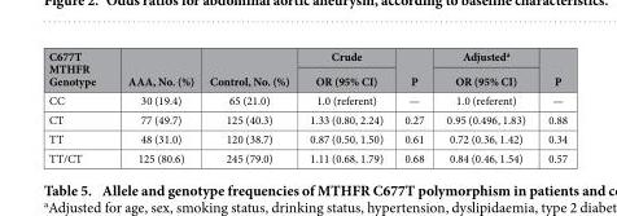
<table><thead><tr><td rowspan="2">C677T MTHFR Genotype</td><td rowspan="2">AAA, No. (%)</td><td rowspan="2">Control, No. (%)</td><td rowspan="2">Crude OR (95% CI)</td><td rowspan="2">P</td><td rowspan="2">Adjusted<sup>a</sup> OR (95% CI)</td><td rowspan="2">P</td></tr><tr></tr></thead><tbody><tr><td>CC</td><td>30 (19.4)</td><td>65 (21.0)</td><td>1.0 (referent)</td><td>—</td><td>1.0 (referent)</td><td>—</td></tr><tr><td>CT</td><td>77 (49.7)</td><td>125 (40.3)</td><td>1.33 (0.80, 2.24)</td><td>0.27</td><td>0.95 (0.496, 1.83)</td><td>0.88</td></tr><tr><td>TT</td><td>48 (31.0)</td><td>120 (38.7)</td><td>0.87 (0.50, 1.50)</td><td>0.61</td><td>0.72 (0.36, 1.42)</td><td>0.34</td></tr><tr><td>TT/CT</td><td>125 (80.6)</td><td>245 (79.0)</td><td>1.11 (0.68, 1.79)</td><td>0.68</td><td>0.84 (0.46, 1.54)</td><td>0.57</td></tr></tbody></table>